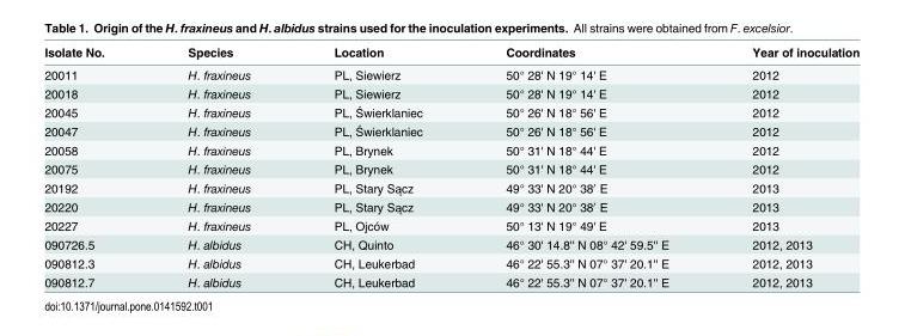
<table><thead><tr><td>Isolate No.</td><td>Species</td><td>Location</td><td>Coordinates</td><td>Year of inoculation</td></tr></thead><tbody><tr><td>20011</td><td>H. fraxineus</td><td>PL, Siewierz</td><td>50° 28&#x27; N 19° 14&#x27; E</td><td>2012</td></tr><tr><td>20018</td><td>H. fraxineus</td><td>PL, Siewierz</td><td>50° 28&#x27; N 19° 14&#x27; E</td><td>2012</td></tr><tr><td>20045</td><td>H. fraxineus</td><td>PL, Świerklaniec</td><td>50° 26&#x27; N 18° 56&#x27; E</td><td>2012</td></tr><tr><td>20047</td><td>H. fraxineus</td><td>PL, Świerklaniec</td><td>50° 26&#x27; N 18° 56&#x27; E</td><td>2012</td></tr><tr><td>20058</td><td>H. fraxineus</td><td>PL, Brynek</td><td>50° 31&#x27; N 18° 44&#x27; E</td><td>2012</td></tr><tr><td>20075</td><td>H. fraxineus</td><td>PL, Brynek</td><td>50° 31&#x27; N 18° 44&#x27; E</td><td>2012</td></tr><tr><td>20192</td><td>H. fraxineus</td><td>PL, Stary Sącz</td><td>49° 33&#x27; N 20° 38′ E</td><td>2013</td></tr><tr><td>20220</td><td>H. fraxineus</td><td>PL, Stary Sącz</td><td>49° 33&#x27; N 20° 38′ E</td><td>2013</td></tr><tr><td>20227</td><td>H. fraxineus</td><td>PL, Ojców</td><td>50° 13&#x27; N 19° 49&#x27; E</td><td>2013</td></tr><tr><td>090726.5</td><td>H. albidus</td><td>CH, Quinto</td><td>46° 30&#x27; 14.8&#x27;&#x27; N 08° 42&#x27; 59.5&#x27;&#x27; E</td><td>2012, 2013</td></tr><tr><td>090812.3</td><td>H. albidus</td><td>CH, Leukerbad</td><td>46° 22&#x27; 55.3&#x27;&#x27; N 07° 37&#x27; 20.1&#x27;&#x27; E</td><td>2012, 2013</td></tr><tr><td>090812.7</td><td>H. albidus</td><td>CH, Leukerbad</td><td>46° 22&#x27; 55.3&#x27;&#x27; N 07° 37&#x27; 20.1&#x27;&#x27; E</td><td>2012, 2013</td></tr></tbody></table>